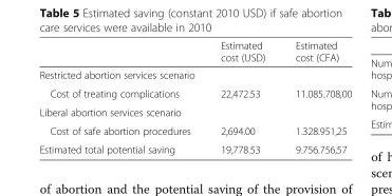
<table><thead><tr><td></td><td>Estimated cost (USD)</td><td>Estimated cost (CFA)</td></tr></thead><tbody><tr><td colspan="3">Restricted abortion services scenario</td></tr><tr><td>Cost of treating complications</td><td>22,472.53</td><td>11.085.708,00</td></tr><tr><td colspan="3">Liberal abortion services scenario</td></tr><tr><td>Cost of safe abortion procedures</td><td>2,694.00</td><td>1.328.951,25</td></tr><tr><td>Estimated total potential saving</td><td>19,778.53</td><td>9.756.756,57</td></tr></tbody></table>